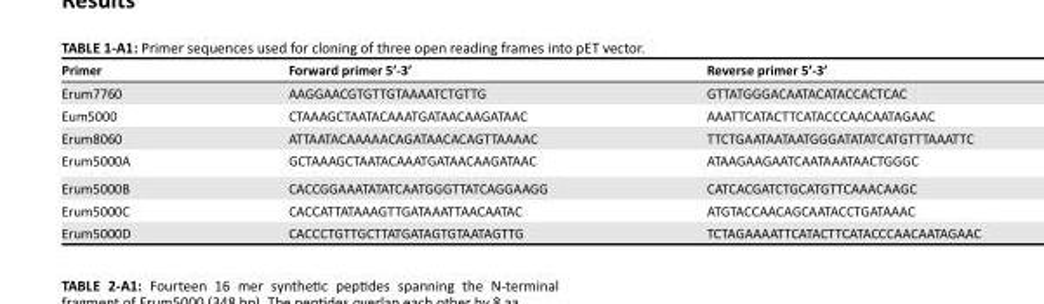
<table><thead><tr><td>Primer</td><td>Forward primer 5’-3’</td><td>Reverse primer 5’-3’</td></tr></thead><tbody><tr><td>Erum7760</td><td>AAGGAACGTGTTGTAAAATCTGTTG</td><td>GTTATGGGACAATACATACCACTCAC</td></tr><tr><td>Eum5000</td><td>CTAAAGCTAATACAAATGATAACAAGATAAC</td><td>AAATTCATACTTCATACCCAACAATAGAAC</td></tr><tr><td>Erum8060</td><td>ATTAATACAAAAACAGATAACACAGTTAAAAC</td><td>TTCTGAATAATAATGGGATATATCATGTTTAAATTC</td></tr><tr><td>Erum5000A</td><td>GCTAAAGCTAATACAAATGATAACAAGATAAC</td><td>ATAAGAAGAATCAATAAATAACTGGGC</td></tr><tr><td>Erum5000B</td><td>CACCGGAAATATATCAATGGGTTATCAGGAAGG</td><td>CATCACGATCTGCATGTTCAAACAAGC</td></tr><tr><td>Erum5000C</td><td>CACCATTATAAAGTTGATAAATTAACAATAC</td><td>ATGTACCAACAGCAATACCTGATAAAC</td></tr><tr><td>Erum5000D</td><td>CACCCTGTTGCTTATGATAGTGTAATAGTTG</td><td>TCTAGAAAATTCATACTTCATACCCAACAATAGAAC</td></tr></tbody></table>